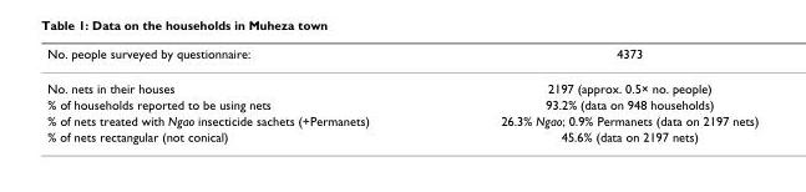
<table><thead><tr><td>No. people surveyed by questionnaire:</td><td>4373</td></tr></thead><tbody><tr><td>No. nets in their houses</td><td>2197 (approx. 0.5× no. people)</td></tr><tr><td>% of households reported to be using nets</td><td>93.2% (data on 948 households)</td></tr><tr><td>% of nets treated with Ngao insecticide sachets (+Permanets)</td><td>26.3% Ngao; 0.9% Permanets (data on 2197 nets)</td></tr><tr><td>% of nets rectangular (not conical)</td><td>45.6% (data on 2197 nets)</td></tr></tbody></table>